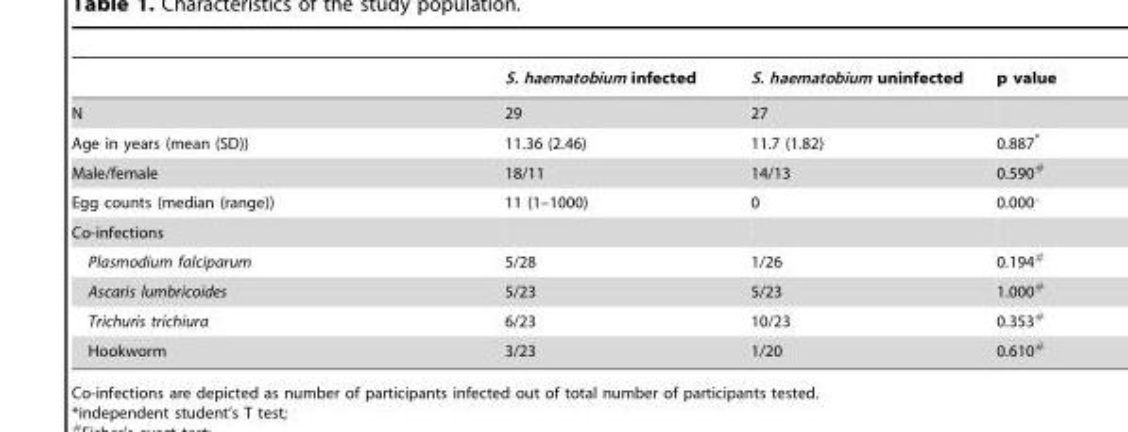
<table><thead><tr><td></td><td>S. haematobium infected</td><td>S. haematobium uninfected</td><td>p value</td></tr></thead><tbody><tr><td>N</td><td>29</td><td>27</td><td></td></tr><tr><td>Age in years (mean (SD))</td><td>11.36 (2.46)</td><td>11.7 (1.82)</td><td>0.887*</td></tr><tr><td>Male/female</td><td>18/11</td><td>14/13</td><td>0.590#</td></tr><tr><td>Egg counts (median (range))</td><td>11 (1–1000)</td><td>0</td><td>0.000‘</td></tr><tr><td colspan="4">Co-infections</td></tr><tr><td>Plasmodium falciparum</td><td>5/28</td><td>1/26</td><td>0.194#</td></tr><tr><td>Ascaris lumbricoides</td><td>5/23</td><td>5/23</td><td>1.000#</td></tr><tr><td>Trichuris trichiura</td><td>6/23</td><td>10/23</td><td>0.353#</td></tr><tr><td>Hookworm</td><td>3/23</td><td>1/20</td><td>0.610#</td></tr></tbody></table>